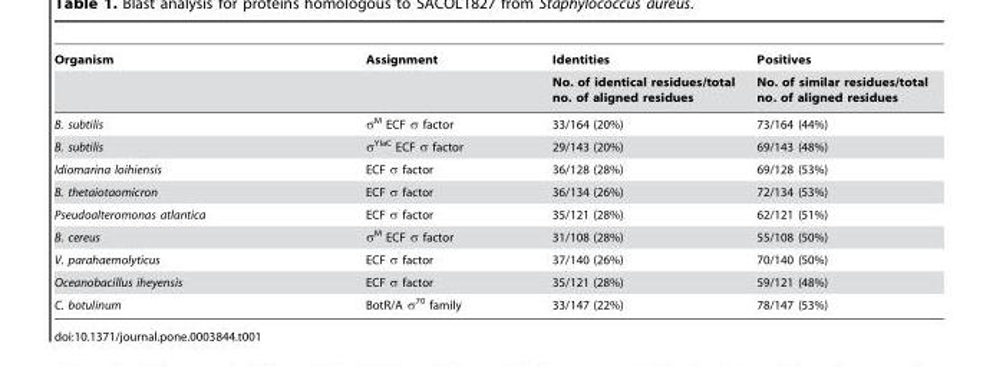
<table><thead><tr><td rowspan="2">Organism</td><td rowspan="2">Assignment</td><td rowspan="2">Identities No. of identical residues/total no. of aligned residues</td><td rowspan="2">Positives No. of similar residues/total no. of aligned residues</td></tr><tr></tr></thead><tbody><tr><td>B. subtilis</td><td>σ<sup>M</sup> ECF σ factor</td><td>33/164 (20%)</td><td>73/164 (44%)</td></tr><tr><td>B. subtilis</td><td>σ<sup>YlaC</sup> ECF σ factor</td><td>29/143 (20%)</td><td>69/143 (48%)</td></tr><tr><td>Idiomarina loihiensis</td><td>ECF σ factor</td><td>36/128 (28%)</td><td>69/128 (53%)</td></tr><tr><td>B. thetaiotaomicron</td><td>ECF σ factor</td><td>36/134 (26%)</td><td>72/134 (53%)</td></tr><tr><td>Pseudoalteromonas atlantica</td><td>ECF σ factor</td><td>35/121 (28%)</td><td>62/121 (51%)</td></tr><tr><td>B. cereus</td><td>σ<sup>M</sup> ECF σ factor</td><td>31/108 (28%)</td><td>55/108 (50%)</td></tr><tr><td>V. parahaemolyticus</td><td>ECF σ factor</td><td>37/140 (26%)</td><td>70/140 (50%)</td></tr><tr><td>Oceanobacillus iheyensis</td><td>ECF σ factor</td><td>35/121 (28%)</td><td>59/121 (48%)</td></tr><tr><td>C. botulinum</td><td>BotR/A σ<sup>70</sup> family</td><td>33/147 (22%)</td><td>78/147 (53%)</td></tr></tbody></table>